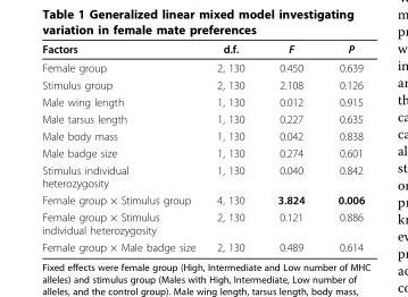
<table><thead><tr><td>Factors</td><td>d.f.</td><td>F</td><td>P</td></tr></thead><tbody><tr><td>Female group</td><td>2, 130</td><td>0.450</td><td>0.639</td></tr><tr><td>Stimulus group</td><td>2, 130</td><td>2.108</td><td>0.126</td></tr><tr><td>Male wing length</td><td>1, 130</td><td>0.012</td><td>0.915</td></tr><tr><td>Male tarsus length</td><td>1, 130</td><td>0.227</td><td>0.635</td></tr><tr><td>Male body mass</td><td>1, 130</td><td>0.042</td><td>0.838</td></tr><tr><td>Male badge size</td><td>1, 130</td><td>0.274</td><td>0.601</td></tr><tr><td>Stimulus individual heterozygosity</td><td>1, 130</td><td>0.040</td><td>0.842</td></tr><tr><td>Female group × Stimulus group</td><td>4, 130</td><td>3.824</td><td>0.006</td></tr><tr><td>Female group × Stimulus individual heterozygosity</td><td>2, 130</td><td>0.121</td><td>0.886</td></tr><tr><td>Female group × Male badge size</td><td>2, 130</td><td>0.489</td><td>0.614</td></tr></tbody></table>